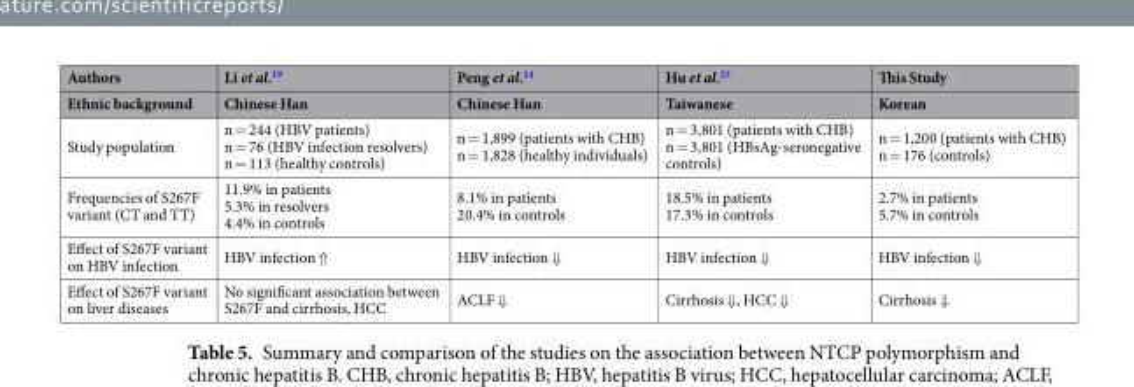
<table><thead><tr><td rowspan="2">Authors Ethnic background</td><td rowspan="2">Li et al.<sup>19</sup> Chinese Han</td><td rowspan="2">Peng et al.<sup>24</sup> Chinese Han</td><td rowspan="2">Hu et al.<sup>25</sup> Taiwanese</td><td rowspan="2">This Study Korean</td></tr><tr></tr></thead><tbody><tr><td>Study population</td><td>n = 244 (HBV patients) n = 76 (HBV infection resolvers) n = 113 (healthy controls)</td><td>n = 1,899 (patients with CHB) n = 1,828 (healthy individuals)</td><td>n = 3,801 (patients with CHB) n = 3,801 (HBsAg-seronegative controls)</td><td>n = 1,200 (patients with CHB) n = 176 (controls)</td></tr><tr><td>Frequencies of S267F variant (CT and TT)</td><td>11.9% in patients 5.3% in resolvers 4.4% in controls</td><td>8.1% in patients 20.4% in controls</td><td>18.5% in patients 17.3% in controls</td><td>2.7% in patients 5.7% in controls</td></tr><tr><td>Effect of S267F variant on HBV infection</td><td>HBV infection ⇑</td><td>HBV infection ⇓</td><td>HBV infection ⇓</td><td>HBV infection ⇓</td></tr><tr><td>Effect of S267F variant on liver diseases</td><td>No significant association between S267F and cirrhosis, HCC</td><td>ACLF ⇓</td><td>Cirrhosis ⇓, HCC ⇓</td><td>Cirrhosis ⇓</td></tr></tbody></table>